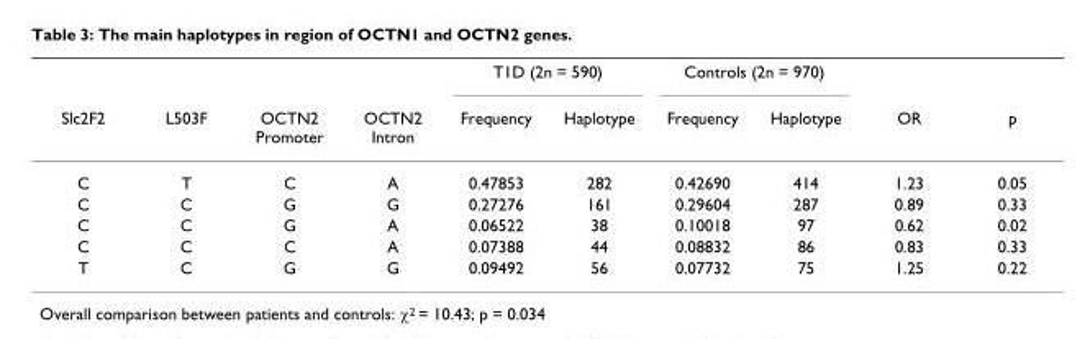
<table><thead><tr><td rowspan="2">Slc2F2</td><td rowspan="2">L503F</td><td rowspan="2">OCTN2 Promoter</td><td rowspan="2">OCTN2 Intron</td><td colspan="2">T1D (2n = 590)</td><td colspan="2">Controls (2n = 970)</td><td rowspan="2">OR</td><td rowspan="2">p</td></tr><tr><td>Frequency</td><td>Haplotype</td><td>Frequency</td><td>Haplotype</td></tr></thead><tbody><tr><td>C</td><td>T</td><td>C</td><td>A</td><td>0.47853</td><td>282</td><td>0.42690</td><td>414</td><td>1.23</td><td>0.05</td></tr><tr><td>C</td><td>C</td><td>G</td><td>G</td><td>0.27276</td><td>161</td><td>0.29604</td><td>287</td><td>0.89</td><td>0.33</td></tr><tr><td>C</td><td>C</td><td>G</td><td>A</td><td>0.06522</td><td>38</td><td>0.10018</td><td>97</td><td>0.62</td><td>0.02</td></tr><tr><td>C</td><td>C</td><td>C</td><td>A</td><td>0.07388</td><td>44</td><td>0.08832</td><td>86</td><td>0.83</td><td>0.33</td></tr><tr><td>T</td><td>C</td><td>G</td><td>G</td><td>0.09492</td><td>56</td><td>0.07732</td><td>75</td><td>1.25</td><td>0.22</td></tr></tbody></table>